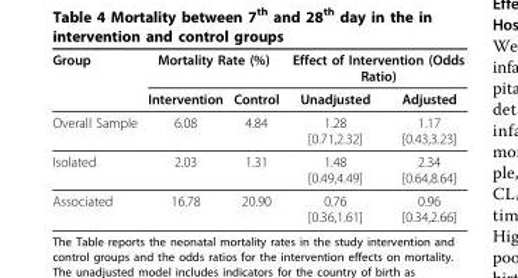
<table><thead><tr><td rowspan="2">Group</td><td colspan="2">Mortality Rate (%)</td><td colspan="2">Effect of Intervention (Odds Ratio)</td></tr><tr><td>Intervention</td><td>Control</td><td>Unadjusted</td><td>Adjusted</td></tr></thead><tbody><tr><td>Overall Sample</td><td>6.08</td><td>4.84</td><td>1.28 [0.71,2.32]</td><td>1.17 [0.43,3.23]</td></tr><tr><td>Isolated</td><td>2.03</td><td>1.31</td><td>1.48 [0.49,4.49]</td><td>2.34 [0.64,8.64]</td></tr><tr><td>Associated</td><td>16.78</td><td>20.90</td><td>0.76 [0.36,1.61]</td><td>0.96 [0.34,2.66]</td></tr></tbody></table>